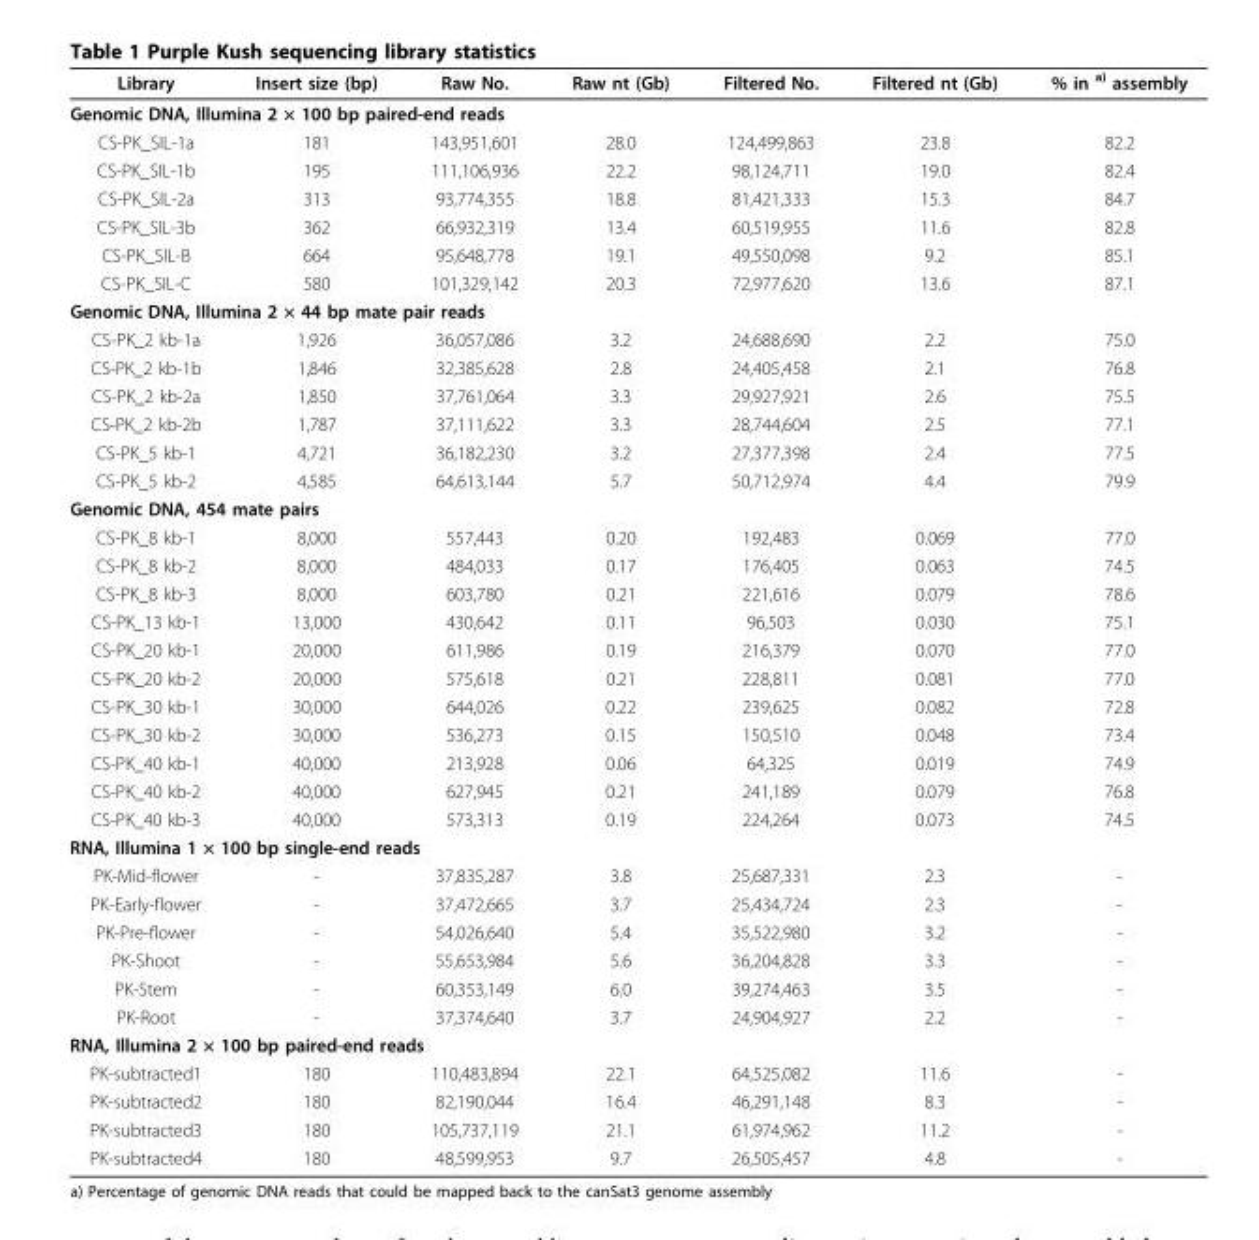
<table><thead><tr><td>Library</td><td>Insert size (bp)</td><td>Raw No.</td><td>Raw nt (Gb)</td><td>Filtered No.</td><td>Filtered nt (Gb)</td><td>% in <sup>a)</sup> assembly</td></tr></thead><tbody><tr><td colspan="7">Genomic DNA, Illumina 2 × 100 bp paired-end reads</td></tr><tr><td>CS-PK_SIL-1a</td><td>181</td><td>143,951,601</td><td>28.0</td><td>124,499,863</td><td>23.8</td><td>82.2</td></tr><tr><td>CS-PK_SIL-1b</td><td>195</td><td>111,106,936</td><td>22.2</td><td>98,124,711</td><td>19.0</td><td>82.4</td></tr><tr><td>CS-PK_SIL-2a</td><td>313</td><td>93,774,355</td><td>18.8</td><td>81,421,333</td><td>15.3</td><td>84.7</td></tr><tr><td>CS-PK_SIL-3b</td><td>362</td><td>66,932,319</td><td>13.4</td><td>60,519,955</td><td>11.6</td><td>82.8</td></tr><tr><td>CS-PK_SIL-B</td><td>664</td><td>95,648,778</td><td>19.1</td><td>49,550,098</td><td>9.2</td><td>85.1</td></tr><tr><td>CS-PK_SIL-C</td><td>580</td><td>101,329,142</td><td>20.3</td><td>72,977,620</td><td>13.6</td><td>87.1</td></tr><tr><td colspan="7">Genomic DNA, Illumina 2 × 44 bp mate pair reads</td></tr><tr><td>CS-PK_2 kb-1a</td><td>1,926</td><td>36,057,086</td><td>3.2</td><td>24,688,690</td><td>2.2</td><td>75.0</td></tr><tr><td>CS-PK_2 kb-1b</td><td>1,846</td><td>32,385,628</td><td>2.8</td><td>24,405,458</td><td>2.1</td><td>76.8</td></tr><tr><td>CS-PK_2 kb-2a</td><td>1,850</td><td>37,761,064</td><td>3.3</td><td>29,927,921</td><td>2.6</td><td>75.5</td></tr><tr><td>CS-PK_2 kb-2b</td><td>1,787</td><td>37,111,622</td><td>3.3</td><td>28,744,604</td><td>2.5</td><td>77.1</td></tr><tr><td>CS-PK_5 kb-1</td><td>4,721</td><td>36,182,230</td><td>3.2</td><td>27,377,398</td><td>2.4</td><td>77.5</td></tr><tr><td>CS-PK_5 kb-2</td><td>4,585</td><td>64,613,144</td><td>5.7</td><td>50,712,974</td><td>4.4</td><td>79.9</td></tr><tr><td colspan="7">Genomic DNA, 454 mate pairs</td></tr><tr><td>CS-PK_8 kb-1</td><td>8,000</td><td>557,443</td><td>0.20</td><td>192,483</td><td>0.069</td><td>77.0</td></tr><tr><td>CS-PK_8 kb-2</td><td>8,000</td><td>484,033</td><td>0.17</td><td>176,405</td><td>0.063</td><td>74.5</td></tr><tr><td>CS-PK_8 kb-3</td><td>8,000</td><td>603,780</td><td>0.21</td><td>221,616</td><td>0.079</td><td>78.6</td></tr><tr><td>CS-PK_13 kb-1</td><td>13,000</td><td>430,642</td><td>0.11</td><td>96,503</td><td>0.030</td><td>75.1</td></tr><tr><td>CS-PK_20 kb-1</td><td>20,000</td><td>611,986</td><td>0.19</td><td>216,379</td><td>0.070</td><td>77.0</td></tr><tr><td>CS-PK_20 kb-2</td><td>20,000</td><td>575,618</td><td>0.21</td><td>228,811</td><td>0.081</td><td>77.0</td></tr><tr><td>CS-PK_30 kb-1</td><td>30,000</td><td>644,026</td><td>0.22</td><td>239,625</td><td>0.082</td><td>72.8</td></tr><tr><td>CS-PK_30 kb-2</td><td>30,000</td><td>536,273</td><td>0.15</td><td>150,510</td><td>0.048</td><td>73.4</td></tr><tr><td>CS-PK_40 kb-1</td><td>40,000</td><td>213,928</td><td>0.06</td><td>64,325</td><td>0.019</td><td>74.9</td></tr><tr><td>CS-PK_40 kb-2</td><td>40,000</td><td>627,945</td><td>0.21</td><td>241,189</td><td>0.079</td><td>76.8</td></tr><tr><td>CS-PK_40 kb-3</td><td>40,000</td><td>573,313</td><td>0.19</td><td>224,264</td><td>0.073</td><td>74.5</td></tr><tr><td colspan="7">RNA, Illumina 1 × 100 bp single-end reads</td></tr><tr><td>PK-Mid-flower</td><td>-</td><td>37,835,287</td><td>3.8</td><td>25,687,331</td><td>2.3</td><td>-</td></tr><tr><td>PK-Early-flower</td><td>-</td><td>37,472,665</td><td>3.7</td><td>25,434,724</td><td>2.3</td><td>-</td></tr><tr><td>PK-Pre-flower</td><td>-</td><td>54,026,640</td><td>5.4</td><td>35,522,980</td><td>3.2</td><td>-</td></tr><tr><td>PK-Shoot</td><td>-</td><td>55,653,984</td><td>5.6</td><td>36,204,828</td><td>3.3</td><td>-</td></tr><tr><td>PK-Stem</td><td>-</td><td>60,353,149</td><td>6.0</td><td>39,274,463</td><td>3.5</td><td>-</td></tr><tr><td>PK-Root</td><td>-</td><td>37,374,640</td><td>3.7</td><td>24,904,927</td><td>2.2</td><td>-</td></tr><tr><td colspan="7">RNA, Illumina 2 × 100 bp paired-end reads</td></tr><tr><td>PK-subtracted1</td><td>180</td><td>110,483,894</td><td>22.1</td><td>64,525,082</td><td>11.6</td><td>-</td></tr><tr><td>PK-subtracted2</td><td>180</td><td>82,190,044</td><td>16.4</td><td>46,291,148</td><td>8.3</td><td>-</td></tr><tr><td>PK-subtracted3</td><td>180</td><td>105,737,119</td><td>21.1</td><td>61,974,962</td><td>11.2</td><td>-</td></tr><tr><td>PK-subtracted4</td><td>180</td><td>48,599,953</td><td>9.7</td><td>26,505,457</td><td>4.8</td><td>-</td></tr></tbody></table>